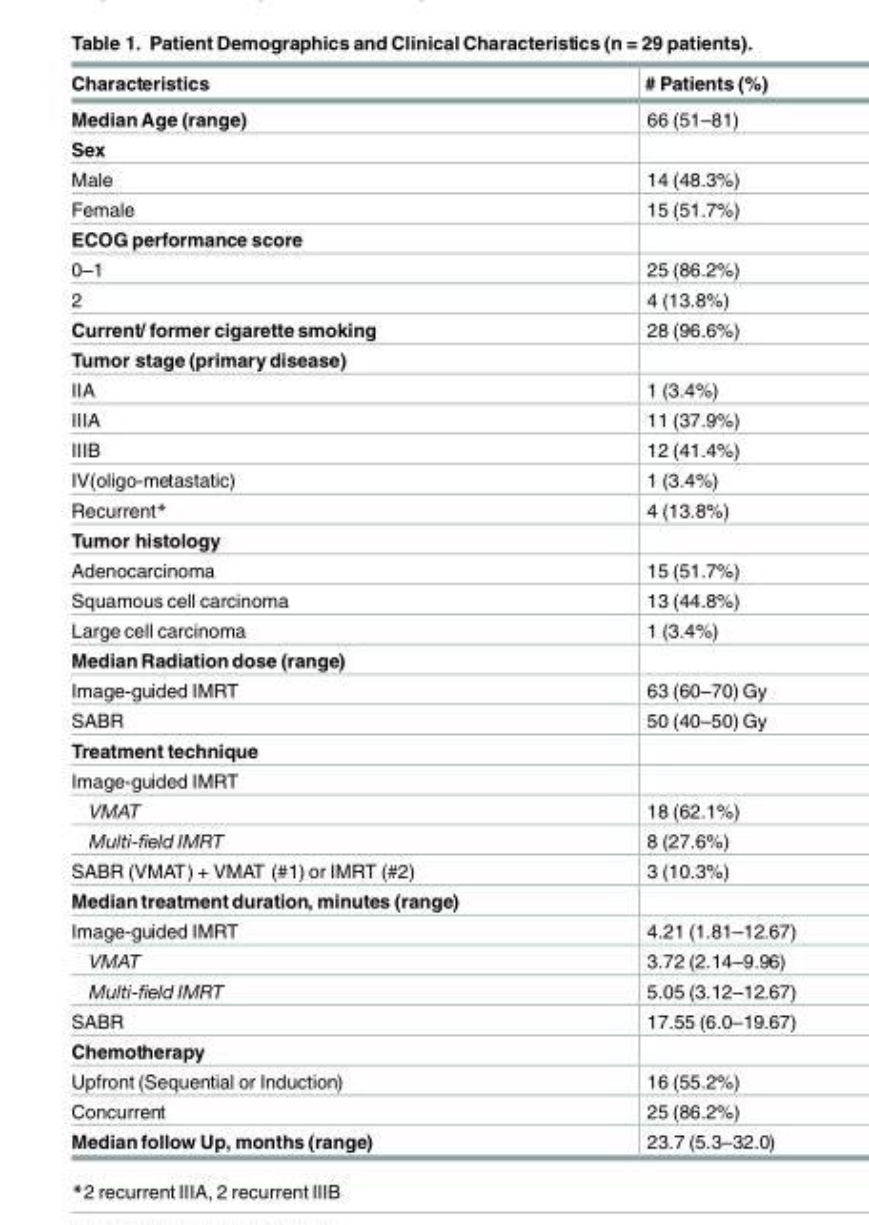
<table><thead><tr><td>Characteristics</td><td># Patients (%)</td></tr></thead><tbody><tr><td>Median Age (range)</td><td>66 (51–81)</td></tr><tr><td colspan="2">Sex</td></tr><tr><td>Male</td><td>14 (48.3%)</td></tr><tr><td>Female</td><td>15 (51.7%)</td></tr><tr><td colspan="2">ECOG performance score</td></tr><tr><td>0–1</td><td>25 (86.2%)</td></tr><tr><td>2</td><td>4 (13.8%)</td></tr><tr><td>Current/ former cigarette smoking</td><td>28 (96.6%)</td></tr><tr><td colspan="2">Tumor stage (primary disease)</td></tr><tr><td>IIA</td><td>1 (3.4%)</td></tr><tr><td>IIIA</td><td>11 (37.9%)</td></tr><tr><td>IIIB</td><td>12 (41.4%)</td></tr><tr><td>IV(oligo-metastatic)</td><td>1 (3.4%)</td></tr><tr><td>Recurrent*</td><td>4 (13.8%)</td></tr><tr><td colspan="2">Tumor histology</td></tr><tr><td>Adenocarcinoma</td><td>15 (51.7%)</td></tr><tr><td>Squamous cell carcinoma</td><td>13 (44.8%)</td></tr><tr><td>Large cell carcinoma</td><td>1 (3.4%)</td></tr><tr><td colspan="2">Median Radiation dose (range)</td></tr><tr><td>Image-guided IMRT</td><td>63 (60–70) Gy</td></tr><tr><td>SABR</td><td>50 (40–50) Gy</td></tr><tr><td colspan="2">Treatment technique</td></tr><tr><td colspan="2">Image-guided IMRT</td></tr><tr><td>VMAT</td><td>18 (62.1%)</td></tr><tr><td>Multi-field IMRT</td><td>8 (27.6%)</td></tr><tr><td>SABR (VMAT) + VMAT (#1) or IMRT (#2)</td><td>3 (10.3%)</td></tr><tr><td colspan="2">Median treatment duration, minutes (range)</td></tr><tr><td>Image-guided IMRT</td><td>4.21 (1.81–12.67)</td></tr><tr><td>VMAT</td><td>3.72 (2.14–9.96)</td></tr><tr><td>Multi-field IMRT</td><td>5.05 (3.12–12.67)</td></tr><tr><td>SABR</td><td>17.55 (6.0–19.67)</td></tr><tr><td colspan="2">Chemotherapy</td></tr><tr><td>Upfront (Sequential or Induction)</td><td>16 (55.2%)</td></tr><tr><td>Concurrent</td><td>25 (86.2%)</td></tr><tr><td>Median follow Up, months (range)</td><td>23.7 (5.3–32.0)</td></tr></tbody></table>